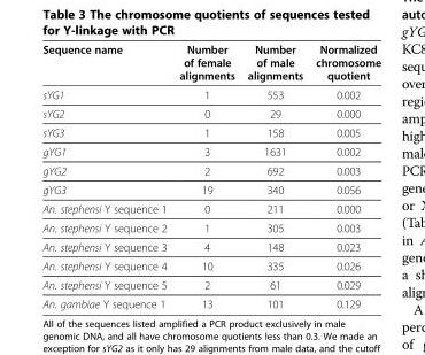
<table><thead><tr><td>Sequence name</td><td>Number of female alignments</td><td>Number of male alignments</td><td>Normalized chromosome quotient</td></tr></thead><tbody><tr><td>sYG1</td><td>1</td><td>553</td><td>0.002</td></tr><tr><td>sYG2</td><td>0</td><td>29</td><td>0.000</td></tr><tr><td>sYG3</td><td>1</td><td>158</td><td>0.005</td></tr><tr><td>gYG1</td><td>3</td><td>1631</td><td>0.002</td></tr><tr><td>gYG2</td><td>2</td><td>692</td><td>0.003</td></tr><tr><td>gYG3</td><td>19</td><td>340</td><td>0.056</td></tr><tr><td>An. stephensi Y sequence 1</td><td>0</td><td>211</td><td>0.000</td></tr><tr><td>An. stephensi Y sequence 2</td><td>1</td><td>305</td><td>0.003</td></tr><tr><td>An. stephensi Y sequence 3</td><td>4</td><td>148</td><td>0.023</td></tr><tr><td>An. stephensi Y sequence 4</td><td>10</td><td>335</td><td>0.026</td></tr><tr><td>An. stephensi Y sequence 5</td><td>2</td><td>61</td><td>0.029</td></tr><tr><td>An. gambiae Y sequence 1</td><td>13</td><td>101</td><td>0.129</td></tr></tbody></table>